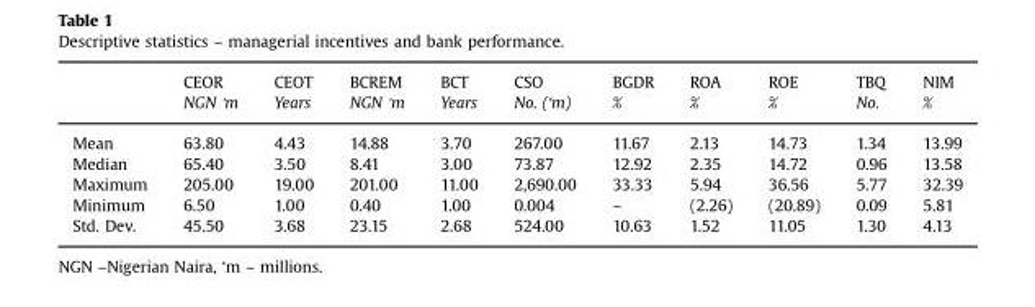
<table><thead><tr><td rowspan="2"></td><td rowspan="2">CEOR NGN &#x27;m</td><td rowspan="2">CEOT Years</td><td rowspan="2">BCREM NGN &#x27;m</td><td rowspan="2">BCT Years</td><td rowspan="2">CSO No. (‘m)</td><td rowspan="2">BGDR %</td><td rowspan="2">ROA %</td><td rowspan="2">ROE %</td><td rowspan="2">TBQ No.</td><td rowspan="2">NIM %</td></tr><tr></tr></thead><tbody><tr><td>Mean</td><td>63.80</td><td>4.43</td><td>14.88</td><td>3.70</td><td>267.00</td><td>11.67</td><td>2.13</td><td>14.73</td><td>1.34</td><td>13.99</td></tr><tr><td>Median</td><td>65.40</td><td>3.50</td><td>8.41</td><td>3.00</td><td>73.87</td><td>12.92</td><td>2.35</td><td>14.72</td><td>0.96</td><td>13.58</td></tr><tr><td>Maximum</td><td>205.00</td><td>19.00</td><td>201.00</td><td>11.00</td><td>2,690.00</td><td>33.33</td><td>5.94</td><td>36.56</td><td>5.77</td><td>32.39</td></tr><tr><td>Minimum</td><td>6.50</td><td>1.00</td><td>0.40</td><td>1.00</td><td>0.004</td><td>–</td><td>(2.26)</td><td>(20.89)</td><td>0.09</td><td>5.81</td></tr><tr><td>Std. Dev.</td><td>45.50</td><td>3.68</td><td>23.15</td><td>2.68</td><td>524.00</td><td>10.63</td><td>1.52</td><td>11.05</td><td>1.30</td><td>4.13</td></tr></tbody></table>